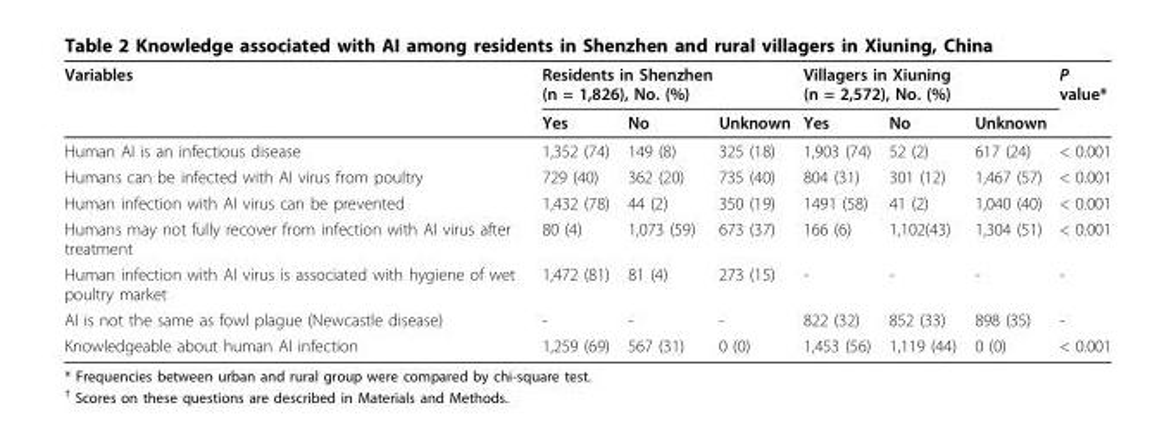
<table><thead><tr><td rowspan="2">Variables</td><td colspan="3">Residents in Shenzhen (n = 1,826), No. (%)</td><td colspan="3">Villagers in Xiuning (n = 2,572), No. (%)</td><td rowspan="2">P value*</td></tr><tr><td>Yes</td><td>No</td><td>Unknown</td><td>Yes</td><td>No</td><td>Unknown</td></tr></thead><tbody><tr><td>Human AI is an infectious disease</td><td>1,352 (74)</td><td>149 (8)</td><td>325 (18)</td><td>1,903 (74)</td><td>52 (2)</td><td>617 (24)</td><td>&lt; 0.001</td></tr><tr><td>Humans can be infected with AI virus from poultry</td><td>729 (40)</td><td>362 (20)</td><td>735 (40)</td><td>804 (31)</td><td>301 (12)</td><td>1,467 (57)</td><td>&lt; 0.001</td></tr><tr><td>Human infection with AI virus can be prevented</td><td>1,432 (78)</td><td>44 (2)</td><td>350 (19)</td><td>1491 (58)</td><td>41 (2)</td><td>1,040 (40)</td><td>&lt; 0.001</td></tr><tr><td>Humans may not fully recover from infection with AI virus after treatment</td><td>80 (4)</td><td>1,073 (59)</td><td>673 (37)</td><td>166 (6)</td><td>1,102(43)</td><td>1,304 (51)</td><td>&lt; 0.001</td></tr><tr><td>Human infection with AI virus is associated with hygiene of wet poultry market</td><td>1,472 (81)</td><td>81 (4)</td><td>273 (15)</td><td>-</td><td>-</td><td>-</td><td>-</td></tr><tr><td>AI is not the same as fowl plague (Newcastle disease)</td><td>-</td><td>-</td><td>-</td><td>822 (32)</td><td>852 (33)</td><td>898 (35)</td><td>-</td></tr><tr><td>Knowledgeable about human AI infection</td><td>1,259 (69)</td><td>567 (31)</td><td>0 (0)</td><td>1,453 (56)</td><td>1,119 (44)</td><td>0 (0)</td><td>&lt; 0.001</td></tr></tbody></table>